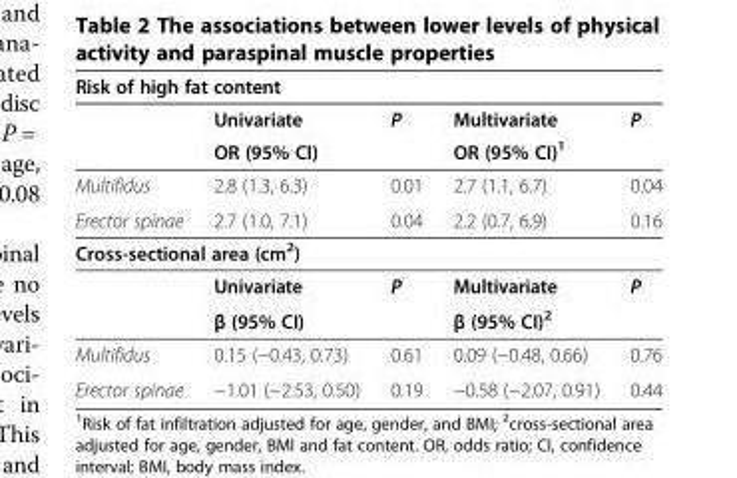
<table><thead><tr><td colspan="5">Risk of high fat content</td></tr><tr><td rowspan="2"></td><td rowspan="2">Univariate OR (95% CI)</td><td rowspan="2">P</td><td rowspan="2">Multivariate OR (95% CI)1</td><td rowspan="2">P</td></tr><tr></tr></thead><tbody><tr><td>Multifidus</td><td>2.8 (1.3, 6.3)</td><td>0.01</td><td>2.7 (1.1, 6.7)</td><td>0.04</td></tr><tr><td>Erector spinae</td><td>2.7 (1.0, 7.1)</td><td>0.04</td><td>2.2 (0.7, 6.9)</td><td>0.16</td></tr><tr><td colspan="5">Cross-sectional area (cm<sup>2</sup>)</td></tr><tr><td></td><td>Univariate</td><td>P</td><td>Multivariate</td><td>P</td></tr><tr><td></td><td>β (95% CI)</td><td></td><td>β (95% CI)<sup>2</sup></td><td></td></tr><tr><td>Multifidus</td><td>0.15 (−0.43, 0.73)</td><td>0.61</td><td>0.09 (−0.48, 0.66)</td><td>0.76</td></tr><tr><td>Erector spinae</td><td>−1.01 (−2.53, 0.50)</td><td>0.19</td><td>−0.58 (−2.07, 0.91)</td><td>0.44</td></tr></tbody></table>